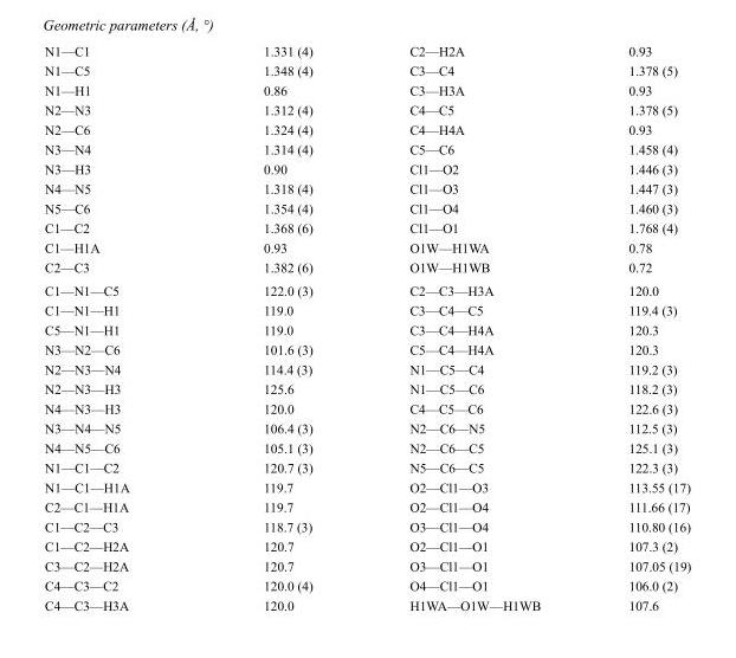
<table><tbody><tr><td>N1—C1</td><td>1.331 (4)</td><td>C2—H2A</td><td>0.93</td></tr><tr><td>N1—C5</td><td>1.348 (4)</td><td>C3—C4</td><td>1.378 (5)</td></tr><tr><td>N1—H1</td><td>0.86</td><td>C3—H3A</td><td>0.93</td></tr><tr><td>N2—N3</td><td>1.312 (4)</td><td>C4—C5</td><td>1.378 (5)</td></tr><tr><td>N2—C6</td><td>1.324 (4)</td><td>C4—H4A</td><td>0.93</td></tr><tr><td>N3—N4</td><td>1.314 (4)</td><td>C5—C6</td><td>1.458 (4)</td></tr><tr><td>N3—H3</td><td>0.90</td><td>Cl1—O2</td><td>1.446 (3)</td></tr><tr><td>N4—N5</td><td>1.318 (4)</td><td>Cl1—O3</td><td>1.447 (3)</td></tr><tr><td>N5—C6</td><td>1.354 (4)</td><td>Cl1—O4</td><td>1.460 (3)</td></tr><tr><td>C1—C2</td><td>1.368 (6)</td><td>Cl1—O1</td><td>1.768 (4)</td></tr><tr><td>C1—H1A</td><td>0.93</td><td>O1W—H1WA</td><td>0.78</td></tr><tr><td>C2—C3</td><td>1.382 (6)</td><td>O1W—H1WB</td><td>0.72</td></tr><tr><td>C1—N1—C5</td><td>122.0 (3)</td><td>C2—C3—H3A</td><td>120.0</td></tr><tr><td>C1—N1—H1</td><td>119.0</td><td>C3—C4—C5</td><td>119.4 (3)</td></tr><tr><td>C5—N1—H1</td><td>119.0</td><td>C3—C4—H4A</td><td>120.3</td></tr><tr><td>N3—N2—C6</td><td>101.6 (3)</td><td>C5—C4—H4A</td><td>120.3</td></tr><tr><td>N2—N3—N4</td><td>114.4 (3)</td><td>N1—C5—C4</td><td>119.2 (3)</td></tr><tr><td>N2—N3—H3</td><td>125.6</td><td>N1—C5—C6</td><td>118.2 (3)</td></tr><tr><td>N4—N3—H3</td><td>120.0</td><td>C4—C5—C6</td><td>122.6 (3)</td></tr><tr><td>N3—N4—N5</td><td>106.4 (3)</td><td>N2—C6—N5</td><td>112.5 (3)</td></tr><tr><td>N4—N5—C6</td><td>105.1 (3)</td><td>N2—C6—C5</td><td>125.1 (3)</td></tr><tr><td>N1—C1—C2</td><td>120.7 (3)</td><td>N5—C6—C5</td><td>122.3 (3)</td></tr><tr><td>N1—C1—H1A</td><td>119.7</td><td>O2—Cl1—O3</td><td>113.55 (17)</td></tr><tr><td>C2—C1—H1A</td><td>119.7</td><td>O2—Cl1—O4</td><td>111.66 (17)</td></tr><tr><td>C1—C2—C3</td><td>118.7 (3)</td><td>O3—Cl1—O4</td><td>110.80 (16)</td></tr><tr><td>C1—C2—H2A</td><td>120.7</td><td>O2—Cl1—O1</td><td>107.3 (2)</td></tr><tr><td>C3—C2—H2A</td><td>120.7</td><td>O3—Cl1—O1</td><td>107.05 (19)</td></tr><tr><td>C4—C3—C2</td><td>120.0 (4)</td><td>O4—Cl1—O1</td><td>106.0 (2)</td></tr><tr><td>C4—C3—H3A</td><td>120.0</td><td>H1WA—O1W—H1WB</td><td>107.6</td></tr></tbody></table>